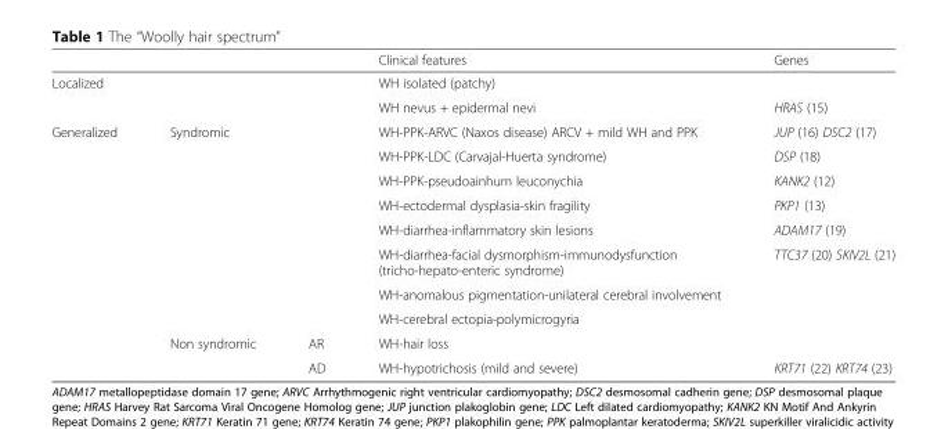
<table><thead><tr><td></td><td></td><td></td><td>Clinical features</td><td>Genes</td></tr></thead><tbody><tr><td rowspan="2" colspan="3">Localized</td><td>WH isolated (patchy)</td><td></td></tr><tr><td>WH nevus + epidermal nevi</td><td>HRAS (15)</td></tr><tr><td rowspan="10">Generalized</td><td rowspan="8" colspan="2">Syndromic</td><td>WH-PPK-ARVC (Naxos disease) ARCV + mild WH and PPK</td><td>JUP (16) DSC2 (17)</td></tr><tr><td>WH-PPK-LDC (Carvajal-Huerta syndrome)</td><td>DSP (18)</td></tr><tr><td>WH-PPK-pseudoainhum leuconychia</td><td>KANK2 (12)</td></tr><tr><td>WH-ectodermal dysplasia-skin fragility</td><td>PKP1 (13)</td></tr><tr><td>WH-diarrhea-inflammatory skin lesions</td><td>ADAM17 (19)</td></tr><tr><td>WH-diarrhea-facial dysmorphism-immunodysfunction (tricho-hepato-enteric syndrome)</td><td>TTC37 (20) SKIV2L (21)</td></tr><tr><td>WH-anomalous pigmentation-unilateral cerebral involvement</td><td></td></tr><tr><td>WH-cerebral ectopia-polymicrogyria</td><td></td></tr><tr><td rowspan="2">Non syndromic</td><td>AR</td><td>WH-hair loss</td><td></td></tr><tr><td>AD</td><td>WH-hypotrichosis (mild and severe)</td><td>KRT71 (22) KRT74 (23)</td></tr></tbody></table>